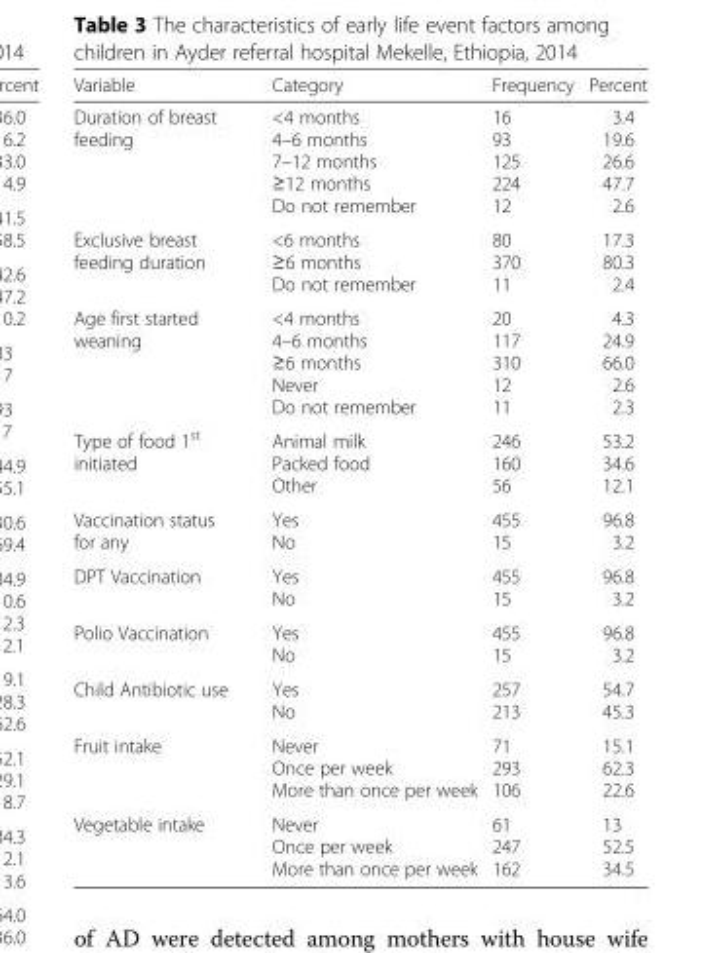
<table><thead><tr><td>Variable</td><td>Category</td><td>Frequency</td><td>Percent</td></tr></thead><tbody><tr><td>Duration of breast feeding</td><td>&lt;4 months 4–6 months 7–12 months ≥12 months Do not remember</td><td>16 93 125 224 12</td><td>3.4 19.6 26.6 47.7 2.6</td></tr><tr><td>Exclusive breast feeding duration</td><td>&lt;6 months ≥6 months Do not remember</td><td>80 370 11</td><td>17.3 80.3 2.4</td></tr><tr><td>Age first started weaning</td><td>&lt;4 months 4–6 months ≥6 months Never Do not remember</td><td>20 117 310 12 11</td><td>4.3 24.9 66.0 2.6 2.3</td></tr><tr><td>Type of food 1<sup>st</sup> initiated</td><td>Animal milk Packed food Other</td><td>246 160 56</td><td>53.2 34.6 12.1</td></tr><tr><td>Vaccination status for any</td><td>Yes No</td><td>455 15</td><td>96.8 3.2</td></tr><tr><td>DPT Vaccination</td><td>Yes No</td><td>455 15</td><td>96.8 3.2</td></tr><tr><td>Polio Vaccination</td><td>Yes No</td><td>455 15</td><td>96.8 3.2</td></tr><tr><td>Child Antibiotic use</td><td>Yes No</td><td>257 213</td><td>54.7 45.3</td></tr><tr><td>Fruit intake</td><td>Never Once per week More than once per week</td><td>71 293 106</td><td>15.1 62.3 22.6</td></tr><tr><td>Vegetable intake</td><td>Never Once per week More than once per week</td><td>61 247 162</td><td>13 52.5 34.5</td></tr></tbody></table>